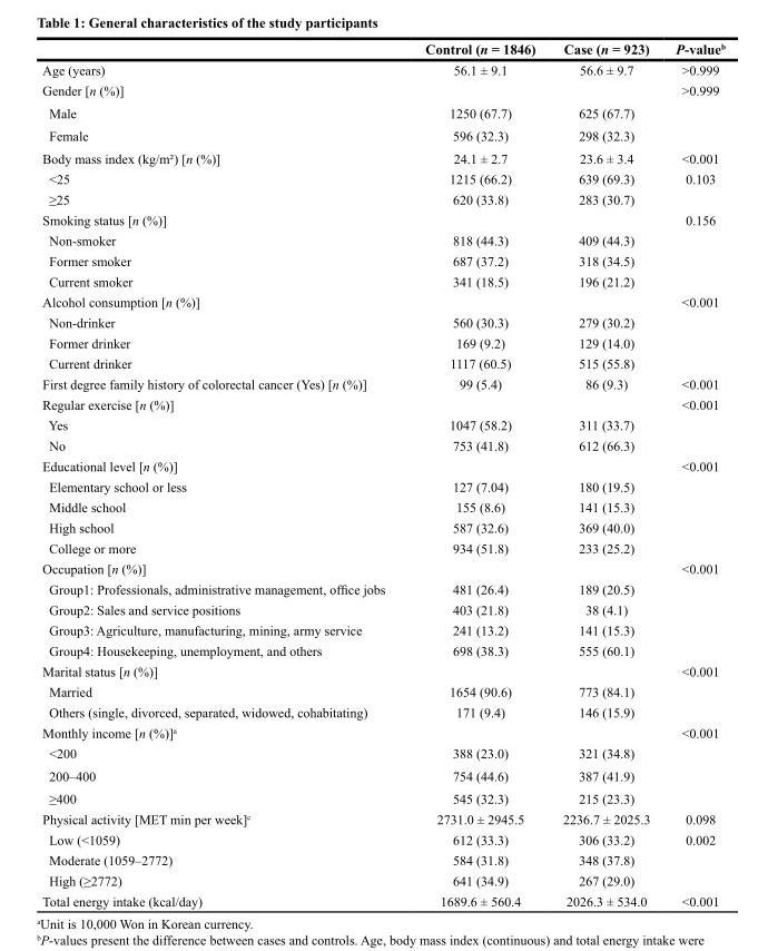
<table><thead><tr><td></td><td>Control (n = 1846)</td><td>Case (n = 923)</td><td>P-value<sup>b</sup></td></tr></thead><tbody><tr><td>Age (years)</td><td>56.1 ± 9.1</td><td>56.6 ± 9.7</td><td>&gt;0.999</td></tr><tr><td>Gender [n (%)]</td><td></td><td></td><td>&gt;0.999</td></tr><tr><td>Male</td><td>1250 (67.7)</td><td>625 (67.7)</td><td></td></tr><tr><td>Female</td><td>596 (32.3)</td><td>298 (32.3)</td><td></td></tr><tr><td>Body mass index (kg/m²) [n (%)]</td><td>24.1 ± 2.7</td><td>23.6 ± 3.4</td><td>&lt;0.001</td></tr><tr><td>&lt;25</td><td>1215 (66.2)</td><td>639 (69.3)</td><td>0.103</td></tr><tr><td>≥25</td><td>620 (33.8)</td><td>283 (30.7)</td><td></td></tr><tr><td>Smoking status [n (%)]</td><td></td><td></td><td>0.156</td></tr><tr><td>Non-smoker</td><td>818 (44.3)</td><td>409 (44.3)</td><td></td></tr><tr><td>Former smoker</td><td>687 (37.2)</td><td>318 (34.5)</td><td></td></tr><tr><td>Current smoker</td><td>341 (18.5)</td><td>196 (21.2)</td><td></td></tr><tr><td>Alcohol consumption [n (%)]</td><td></td><td></td><td>&lt;0.001</td></tr><tr><td>Non-drinker</td><td>560 (30.3)</td><td>279 (30.2)</td><td></td></tr><tr><td>Former drinker</td><td>169 (9.2)</td><td>129 (14.0)</td><td></td></tr><tr><td>Current drinker</td><td>1117 (60.5)</td><td>515 (55.8)</td><td></td></tr><tr><td>First degree family history of colorectal cancer (Yes) [n (%)]</td><td>99 (5.4)</td><td>86 (9.3)</td><td>&lt;0.001</td></tr><tr><td>Regular exercise [n (%)]</td><td></td><td></td><td>&lt;0.001</td></tr><tr><td>Yes</td><td>1047 (58.2)</td><td>311 (33.7)</td><td></td></tr><tr><td>No</td><td>753 (41.8)</td><td>612 (66.3)</td><td></td></tr><tr><td>Educational level [n (%)]</td><td></td><td></td><td>&lt;0.001</td></tr><tr><td>Elementary school or less</td><td>127 (7.04)</td><td>180 (19.5)</td><td></td></tr><tr><td>Middle school</td><td>155 (8.6)</td><td>141 (15.3)</td><td></td></tr><tr><td>High school</td><td>587 (32.6)</td><td>369 (40.0)</td><td></td></tr><tr><td>College or more</td><td>934 (51.8)</td><td>233 (25.2)</td><td></td></tr><tr><td>Occupation [n (%)]</td><td></td><td></td><td>&lt;0.001</td></tr><tr><td>Group1: Professionals, administrative management, office jobs</td><td>481 (26.4)</td><td>189 (20.5)</td><td></td></tr><tr><td>Group2: Sales and service positions</td><td>403 (21.8)</td><td>38 (4.1)</td><td></td></tr><tr><td>Group3: Agriculture, manufacturing, mining, army service</td><td>241 (13.2)</td><td>141 (15.3)</td><td></td></tr><tr><td>Group4: Housekeeping, unemployment, and others</td><td>698 (38.3)</td><td>555 (60.1)</td><td></td></tr><tr><td>Marital status [n (%)]</td><td></td><td></td><td>&lt;0.001</td></tr><tr><td>Married</td><td>1654 (90.6)</td><td>773 (84.1)</td><td></td></tr><tr><td>Others (single, divorced, separated, widowed, cohabitating)</td><td>171 (9.4)</td><td>146 (15.9)</td><td></td></tr><tr><td>Monthly income [n (%)]<sup>a</sup></td><td></td><td></td><td>&lt;0.001</td></tr><tr><td>&lt;200</td><td>388 (23.0)</td><td>321 (34.8)</td><td></td></tr><tr><td>200–400</td><td>754 (44.6)</td><td>387 (41.9)</td><td></td></tr><tr><td>≥400</td><td>545 (32.3)</td><td>215 (23.3)</td><td></td></tr><tr><td>Physical activity [MET min per week]<sup>c</sup></td><td>2731.0 ± 2945.5</td><td>2236.7 ± 2025.3</td><td>0.098</td></tr><tr><td>Low (&lt;1059)</td><td>612 (33.3)</td><td>306 (33.2)</td><td>0.002</td></tr><tr><td>Moderate (1059–2772)</td><td>584 (31.8)</td><td>348 (37.8)</td><td></td></tr><tr><td>High (≥2772)</td><td>641 (34.9)</td><td>267 (29.0)</td><td></td></tr><tr><td>Total energy intake (kcal/day)</td><td>1689.6 ± 560.4</td><td>2026.3 ± 534.0</td><td>&lt;0.001</td></tr></tbody></table>